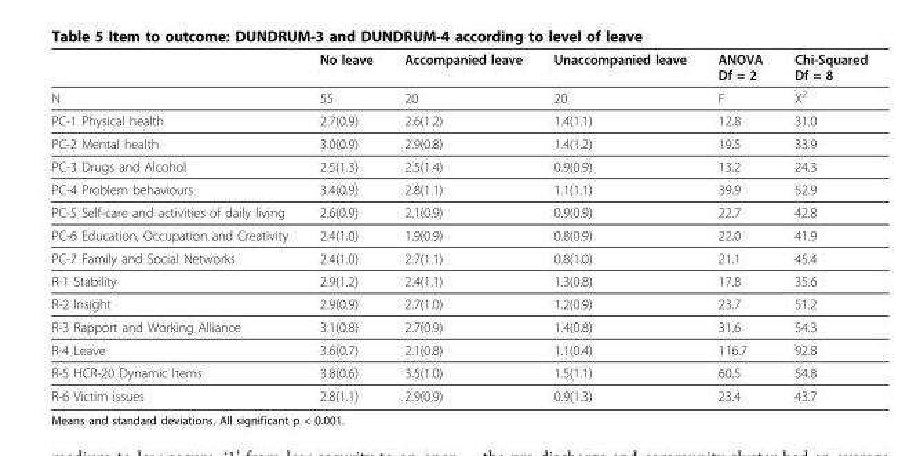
<table><thead><tr><td></td><td>No leave</td><td>Accompanied leave</td><td>Unaccompanied leave</td><td>ANOVA Df = 2</td><td>Chi-Squared Df = 8</td></tr></thead><tbody><tr><td>N</td><td>55</td><td>20</td><td>20</td><td>F</td><td>X<sup>2</sup></td></tr><tr><td>PC-1 Physical health</td><td>2.7(0.9)</td><td>2.6(1.2)</td><td>1.4(1.1)</td><td>12.8</td><td>31.0</td></tr><tr><td>PC-2 Mental health</td><td>3.0(0.9)</td><td>2.9(0.8)</td><td>1.4(1.2)</td><td>19.5</td><td>33.9</td></tr><tr><td>PC-3 Drugs and Alcohol</td><td>2.5(1.3)</td><td>2.5(1.4)</td><td>0.9(0.9)</td><td>13.2</td><td>24.3</td></tr><tr><td>PC-4 Problem behaviours</td><td>3.4(0.9)</td><td>2.8(1.1)</td><td>1.1(1.1)</td><td>39.9</td><td>52.9</td></tr><tr><td>PC-5 Self-care and activities of daily living</td><td>2.6(0.9)</td><td>2.1(0.9)</td><td>0.9(0.9)</td><td>22.7</td><td>42.8</td></tr><tr><td>PC-6 Education, Occupation and Creativity</td><td>2.4(1.0)</td><td>1.9(0.9)</td><td>0.8(0.9)</td><td>22.0</td><td>41.9</td></tr><tr><td>PC-7 Family and Social Networks</td><td>2.4(1.0)</td><td>2.7(1.1)</td><td>0.8(1.0)</td><td>21.1</td><td>45.4</td></tr><tr><td>R-1 Stability</td><td>2.9(1.2)</td><td>2.4(1.1)</td><td>1.3(0.8)</td><td>17.8</td><td>35.6</td></tr><tr><td>R-2 Insight</td><td>2.9(0.9)</td><td>2.7(1.0)</td><td>1.2(0.9)</td><td>23.7</td><td>51.2</td></tr><tr><td>R-3 Rapport and Working Alliance</td><td>3.1(0.8)</td><td>2.7(0.9)</td><td>1.4(0.8)</td><td>31.6</td><td>54.3</td></tr><tr><td>R-4 Leave</td><td>3.6(0.7)</td><td>2.1(0.8)</td><td>1.1(0.4)</td><td>116.7</td><td>92.8</td></tr><tr><td>R-5 HCR-20 Dynamic Items</td><td>3.8(0.6)</td><td>3.5(1.0)</td><td>1.5(1.1)</td><td>60.5</td><td>54.8</td></tr><tr><td>R-6 Victim issues</td><td>2.8(1.1)</td><td>2.9(0.9)</td><td>0.9(1.3)</td><td>23.4</td><td>43.7</td></tr></tbody></table>